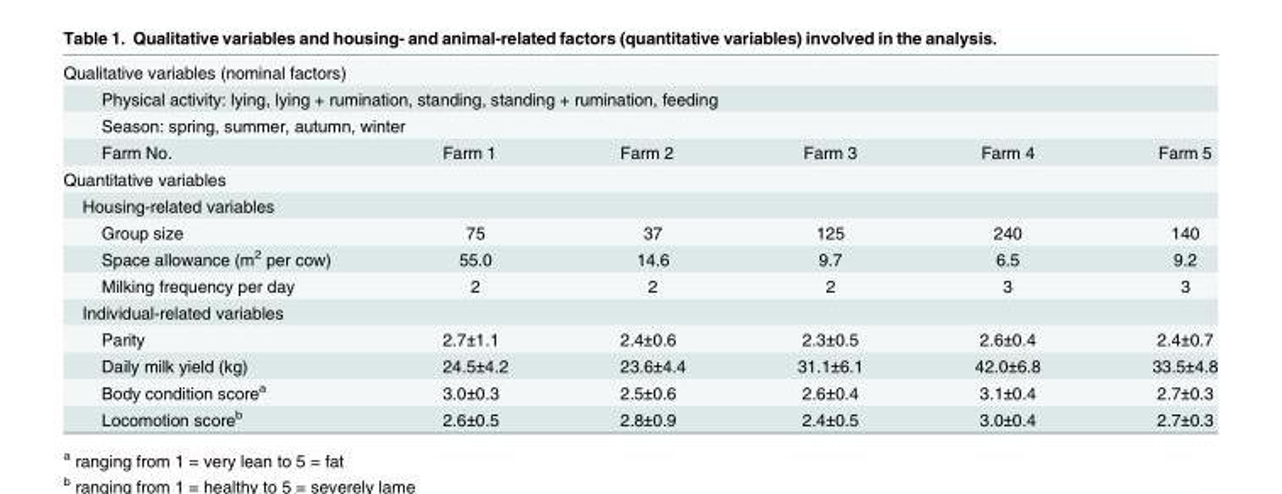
<table><tbody><tr><td colspan="6">Qualitative variables (nominal factors)</td></tr><tr><td colspan="6">Physical activity: lying, lying + rumination, standing, standing + rumination, feeding</td></tr><tr><td colspan="6">Season: spring, summer, autumn, winter</td></tr><tr><td>Farm No.</td><td>Farm 1</td><td>Farm 2</td><td>Farm 3</td><td>Farm 4</td><td>Farm 5</td></tr><tr><td colspan="6">Quantitative variables</td></tr><tr><td colspan="6">Housing-related variables</td></tr><tr><td>Group size</td><td>75</td><td>37</td><td>125</td><td>240</td><td>140</td></tr><tr><td>Space allowance (m<sup>2</sup> per cow)</td><td>55.0</td><td>14.6</td><td>9.7</td><td>6.5</td><td>9.2</td></tr><tr><td>Milking frequency per day</td><td>2</td><td>2</td><td>2</td><td>3</td><td>3</td></tr><tr><td colspan="6">Individual-related variables</td></tr><tr><td>Parity</td><td>2.7±1.1</td><td>2.4±0.6</td><td>2.3±0.5</td><td>2.6±0.4</td><td>2.4±0.7</td></tr><tr><td>Daily milk yield (kg)</td><td>24.5±4.2</td><td>23.6±4.4</td><td>31.1±6.1</td><td>42.0±6.8</td><td>33.5±4.8</td></tr><tr><td>Body condition score<sup>a</sup></td><td>3.0±0.3</td><td>2.5±0.6</td><td>2.6±0.4</td><td>3.1±0.4</td><td>2.7±0.3</td></tr><tr><td>Locomotion score<sup>b</sup></td><td>2.6±0.5</td><td>2.8±0.9</td><td>2.4±0.5</td><td>3.0±0.4</td><td>2.7±0.3</td></tr></tbody></table>